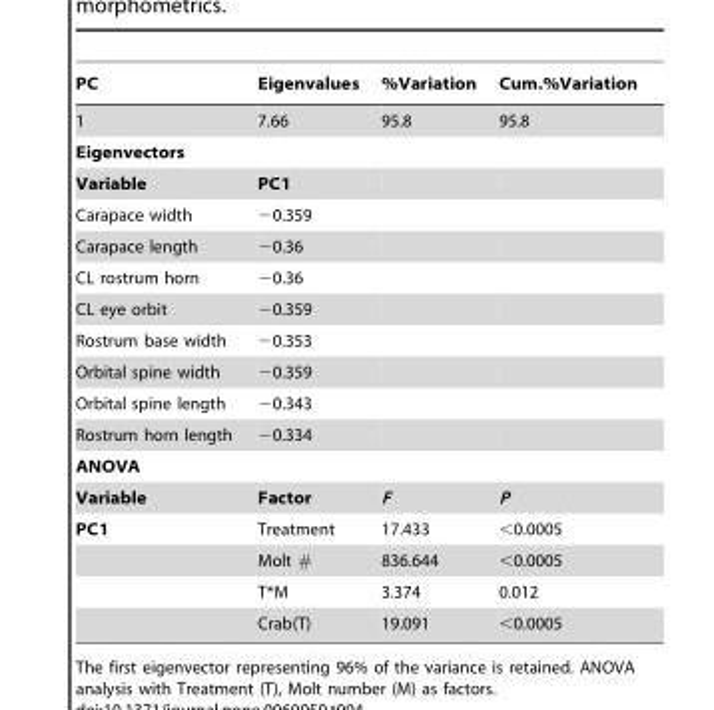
<table><thead><tr><td>PC</td><td>Eigenvalues</td><td>%Variation</td><td>Cum.%Variation</td></tr></thead><tbody><tr><td>1</td><td>7.66</td><td>95.8</td><td>95.8</td></tr><tr><td colspan="4">Eigenvectors</td></tr><tr><td>Variable</td><td>PC1</td><td></td><td></td></tr><tr><td>Carapace width</td><td>−0.359</td><td></td><td></td></tr><tr><td>Carapace length</td><td>−0.36</td><td></td><td></td></tr><tr><td>CL rostrum horn</td><td>−0.36</td><td></td><td></td></tr><tr><td>CL eye orbit</td><td>−0.359</td><td></td><td></td></tr><tr><td>Rostrum base width</td><td>−0.353</td><td></td><td></td></tr><tr><td>Orbital spine width</td><td>−0.359</td><td></td><td></td></tr><tr><td>Orbital spine length</td><td>−0.343</td><td></td><td></td></tr><tr><td>Rostrum horn length</td><td>−0.334</td><td></td><td></td></tr><tr><td colspan="4">ANOVA</td></tr><tr><td>Variable</td><td>Factor</td><td>F</td><td>P</td></tr><tr><td rowspan="4">PC1</td><td>Treatment</td><td>17.433</td><td>&lt;0.0005</td></tr><tr><td>Molt #</td><td>836.644</td><td>&lt;0.0005</td></tr><tr><td>T*M</td><td>3.374</td><td>0.012</td></tr><tr><td>Crab(T)</td><td>19.091</td><td>&lt;0.0005</td></tr></tbody></table>